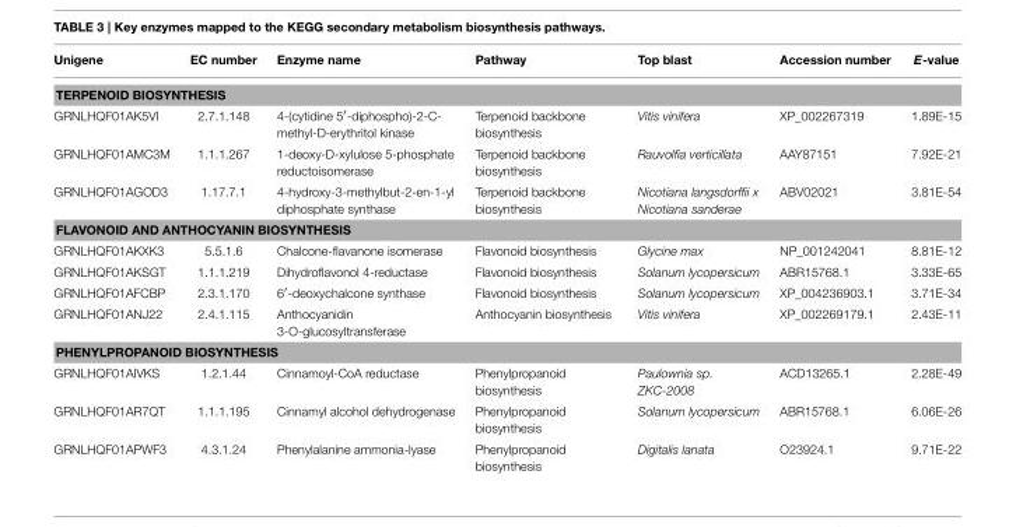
<table><thead><tr><td>Unigene</td><td>EC number</td><td>Enzyme name</td><td>Pathway</td><td>Top blast</td><td>Accession number</td><td>E-value</td></tr></thead><tbody><tr><td colspan="7">TERPENOID BIOSYNTHESIS</td></tr><tr><td>GRNLHQF01AK5VI</td><td>2.7.1.148</td><td>4-(cytidine 5′-diphospho)-2-C- methyl-D-erythritol kinase</td><td>Terpenoid backbone biosynthesis</td><td>Vitis vinifera</td><td>XP_002267319</td><td>1.89E-15</td></tr><tr><td>GRNLHQF01AMC3M</td><td>1.1.1.267</td><td>1-deoxy-D-xylulose 5-phosphate reductoisomerase</td><td>Terpenoid backbone biosynthesis</td><td>Rauvolfia verticillata</td><td>AAY87151</td><td>7.92E-21</td></tr><tr><td>GRNLHQF01AGOD3</td><td>1.17.7.1</td><td>4-hydroxy-3-methylbut-2-en-1-yl diphosphate synthase</td><td>Terpenoid backbone biosynthesis</td><td>Nicotiana langsdorffii x Nicotiana sanderae</td><td>ABV02021</td><td>3.81E-54</td></tr><tr><td colspan="7">FLAVONOID AND ANTHOCYANIN BIOSYNTHESIS</td></tr><tr><td>GRNLHQF01AKXK3</td><td>5.5.1.6</td><td>Chalcone-flavanone isomerase</td><td>Flavonoid biosynthesis</td><td>Glycine max</td><td>NP_001242041</td><td>8.81E-12</td></tr><tr><td>GRNLHQF01AKSGT</td><td>1.1.1.219</td><td>Dihydroflavonol 4-reductase</td><td>Flavonoid biosynthesis</td><td>Solanum lycopersicum</td><td>ABR15768.1</td><td>3.33E-65</td></tr><tr><td>GRNLHQF01AFCBP</td><td>2.3.1.170</td><td>6′-deoxychalcone synthase</td><td>Flavonoid biosynthesis</td><td>Solanum lycopersicum</td><td>XP_004236903.1</td><td>3.71E-34</td></tr><tr><td>GRNLHQF01ANJ22</td><td>2.4.1.115</td><td>Anthocyanidin 3-O-glucosyltransferase</td><td>Anthocyanin biosynthesis</td><td>Vitis vinifera</td><td>XP_002269179.1</td><td>2.43E-11</td></tr><tr><td colspan="7">PHENYLPROPANOID BIOSYNTHESIS</td></tr><tr><td>GRNLHQF01AIVKS</td><td>1.2.1.44</td><td>Cinnamoyl-CoA reductase</td><td>Phenylpropanoid biosynthesis</td><td>Paulownia sp. ZKC-2008</td><td>ACD13265.1</td><td>2.28E-49</td></tr><tr><td>GRNLHQF01AR7QT</td><td>1.1.1.195</td><td>Cinnamyl alcohol dehydrogenase</td><td>Phenylpropanoid biosynthesis</td><td>Solanum lycopersicum</td><td>ABR15768.1</td><td>6.06E-26</td></tr><tr><td>GRNLHQF01APWF3</td><td>4.3.1.24</td><td>Phenylalanine ammonia-lyase</td><td>Phenylpropanoid biosynthesis</td><td>Digitalis lanata</td><td>O23924.1</td><td>9.71E-22</td></tr></tbody></table>